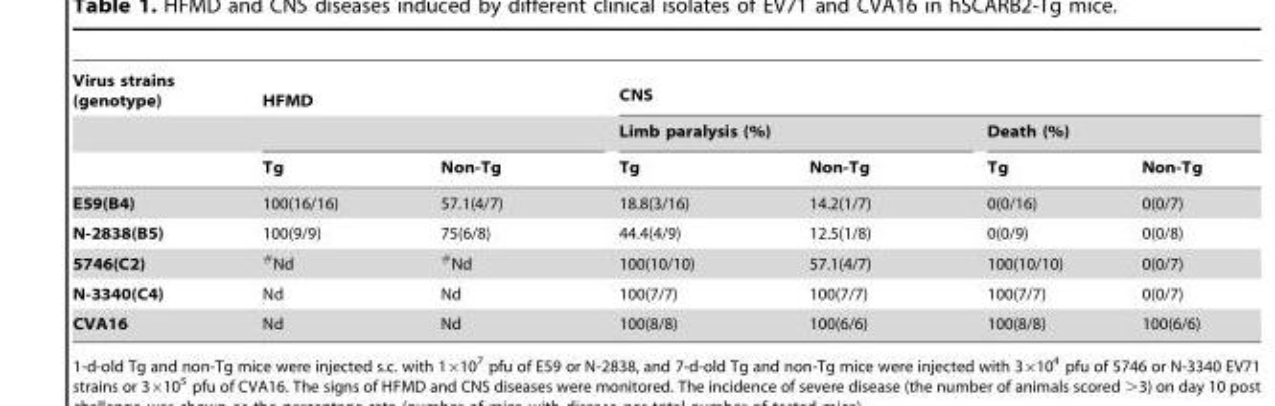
<table><thead><tr><td rowspan="3">Virus strains (genotype)</td><td colspan="2">HFMD</td><td colspan="4">CNS</td></tr><tr><td rowspan="2">Tg</td><td rowspan="2">Non-Tg</td><td colspan="2">Limb paralysis (%)</td><td colspan="2">Death (%)</td></tr><tr><td>Tg</td><td>Non-Tg</td><td>Tg</td><td>Non-Tg</td></tr></thead><tbody><tr><td>E59(B4)</td><td>100(16/16)</td><td>57.1(4/7)</td><td>18.8(3/16)</td><td>14.2(1/7)</td><td>0(0/16)</td><td>0(0/7)</td></tr><tr><td>N-2838(B5)</td><td>100(9/9)</td><td>75(6/8)</td><td>44.4(4/9)</td><td>12.5(1/8)</td><td>0(0/9)</td><td>0(0/8)</td></tr><tr><td>5746(C2)</td><td>#Nd</td><td>#Nd</td><td>100(10/10)</td><td>57.1(4/7)</td><td>100(10/10)</td><td>0(0/7)</td></tr><tr><td>N-3340(C4)</td><td>Nd</td><td>Nd</td><td>100(7/7)</td><td>100(7/7)</td><td>100(7/7)</td><td>0(0/7)</td></tr><tr><td>CVA16</td><td>Nd</td><td>Nd</td><td>100(8/8)</td><td>100(6/6)</td><td>100(8/8)</td><td>100(6/6)</td></tr></tbody></table>